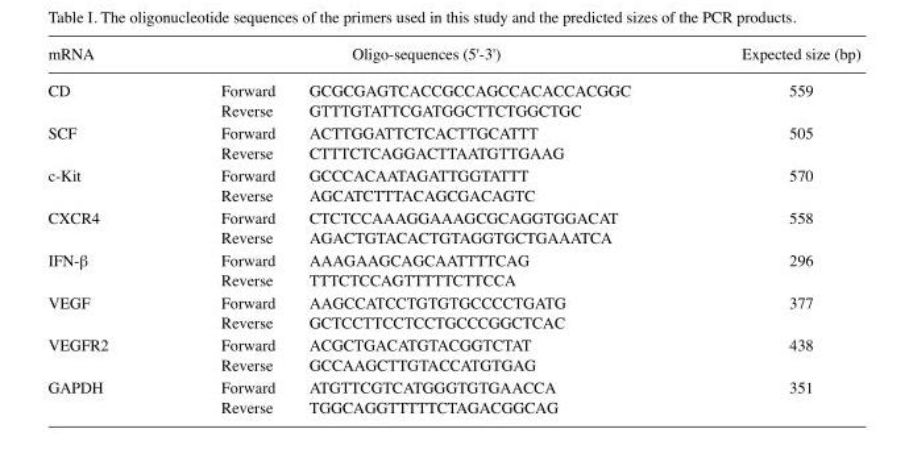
<table><thead><tr><td>mRNA</td><td></td><td>Oligo-sequences (5&#x27;-3&#x27;)</td><td>Expected size (bp)</td></tr></thead><tbody><tr><td rowspan="2">CD</td><td>Forward</td><td>GCGCGAGTCACCGCCAGCCACACCACGGC</td><td>559</td></tr><tr><td>Reverse</td><td>GTTTGTATTCGATGGCTTCTGGCTGC</td><td></td></tr><tr><td rowspan="2">SCF</td><td>Forward</td><td>ACTTGGATTCTCACTTGCATTT</td><td>505</td></tr><tr><td>Reverse</td><td>CTTTCTCAGGACTTAATGTTGAAG</td><td></td></tr><tr><td rowspan="2">c-Kit</td><td>Forward</td><td>GCCCACAATAGATTGGTATTT</td><td>570</td></tr><tr><td>Reverse</td><td>AGCATCTTTACAGCGACAGTC</td><td></td></tr><tr><td rowspan="2">CXCR4</td><td>Forward</td><td>CTCTCCAAAGGAAAGCGCAGGTGGACAT</td><td>558</td></tr><tr><td>Reverse</td><td>AGACTGTACACTGTAGGTGCTGAAATCA</td><td></td></tr><tr><td rowspan="2">IFN-β</td><td>Forward</td><td>AAAGAAGCAGCAATTTTCAG</td><td>296</td></tr><tr><td>Reverse</td><td>TTTCTCCAGTTTTTCTTCCA</td><td></td></tr><tr><td rowspan="2">VEGF</td><td>Forward</td><td>AAGCCATCCTGTGTGCCCCTGATG</td><td>377</td></tr><tr><td>Reverse</td><td>GCTCCTTCCTCCTGCCCGGCTCAC</td><td></td></tr><tr><td rowspan="2">VEGFR2</td><td>Forward</td><td>ACGCTGACATGTACGGTCTAT</td><td>438</td></tr><tr><td>Reverse</td><td>GCCAAGCTTGTACCATGTGAG</td><td></td></tr><tr><td rowspan="2">GAPDH</td><td>Forward</td><td>ATGTTCGTCATGGGTGTGAACCA</td><td>351</td></tr><tr><td>Reverse</td><td>TGGCAGGTTTTTCTAGACGGCAG</td><td></td></tr></tbody></table>